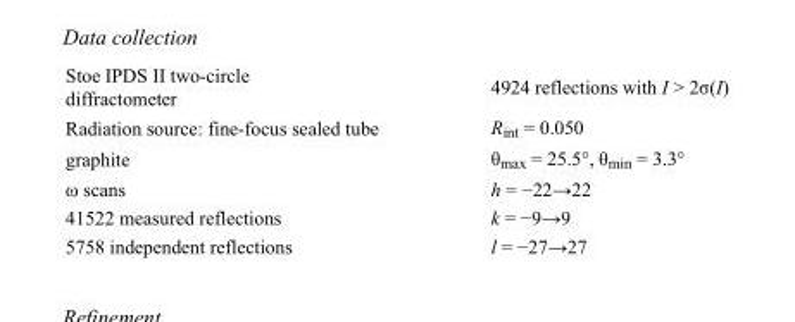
<table><tbody><tr><td>Stoe IPDS II two-circle diffractometer</td><td>4924 reflections with I &gt; 2σ(I)</td></tr><tr><td>Radiation source: fine-focus sealed tube</td><td>R<sub>int</sub> = 0.050</td></tr><tr><td>graphite</td><td>θ<sub>max</sub> = 25.5°, θ<sub>min</sub> = 3.3°</td></tr><tr><td>ω scans</td><td>h = −22→22</td></tr><tr><td>41522 measured reflections</td><td>k = −9→9</td></tr><tr><td>5758 independent reflections</td><td>l = −27→27</td></tr></tbody></table>